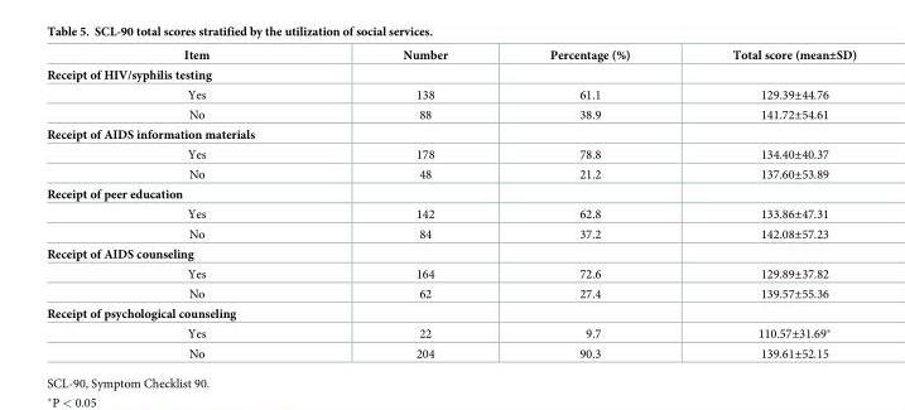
<table><thead><tr><td>Item</td><td>Number</td><td>Percentage (%)</td><td>Total score (mean±SD)</td></tr></thead><tbody><tr><td colspan="4">Receipt of HIV/syphilis testing</td></tr><tr><td>Yes</td><td>138</td><td>61.1</td><td>129.39±44.76</td></tr><tr><td>No</td><td>88</td><td>38.9</td><td>141.72±54.61</td></tr><tr><td colspan="4">Receipt of AIDS information materials</td></tr><tr><td>Yes</td><td>178</td><td>78.8</td><td>134.40±40.37</td></tr><tr><td>No</td><td>48</td><td>21.2</td><td>137.60±53.89</td></tr><tr><td colspan="4">Receipt of peer education</td></tr><tr><td>Yes</td><td>142</td><td>62.8</td><td>133.86±47.31</td></tr><tr><td>No</td><td>84</td><td>37.2</td><td>142.08±57.23</td></tr><tr><td colspan="4">Receipt of AIDS counseling</td></tr><tr><td>Yes</td><td>164</td><td>72.6</td><td>129.89±37.82</td></tr><tr><td>No</td><td>62</td><td>27.4</td><td>139.57±55.36</td></tr><tr><td colspan="4">Receipt of psychological counseling</td></tr><tr><td>Yes</td><td>22</td><td>9.7</td><td>110.57±31.69*</td></tr><tr><td>No</td><td>204</td><td>90.3</td><td>139.61±52.15</td></tr></tbody></table>